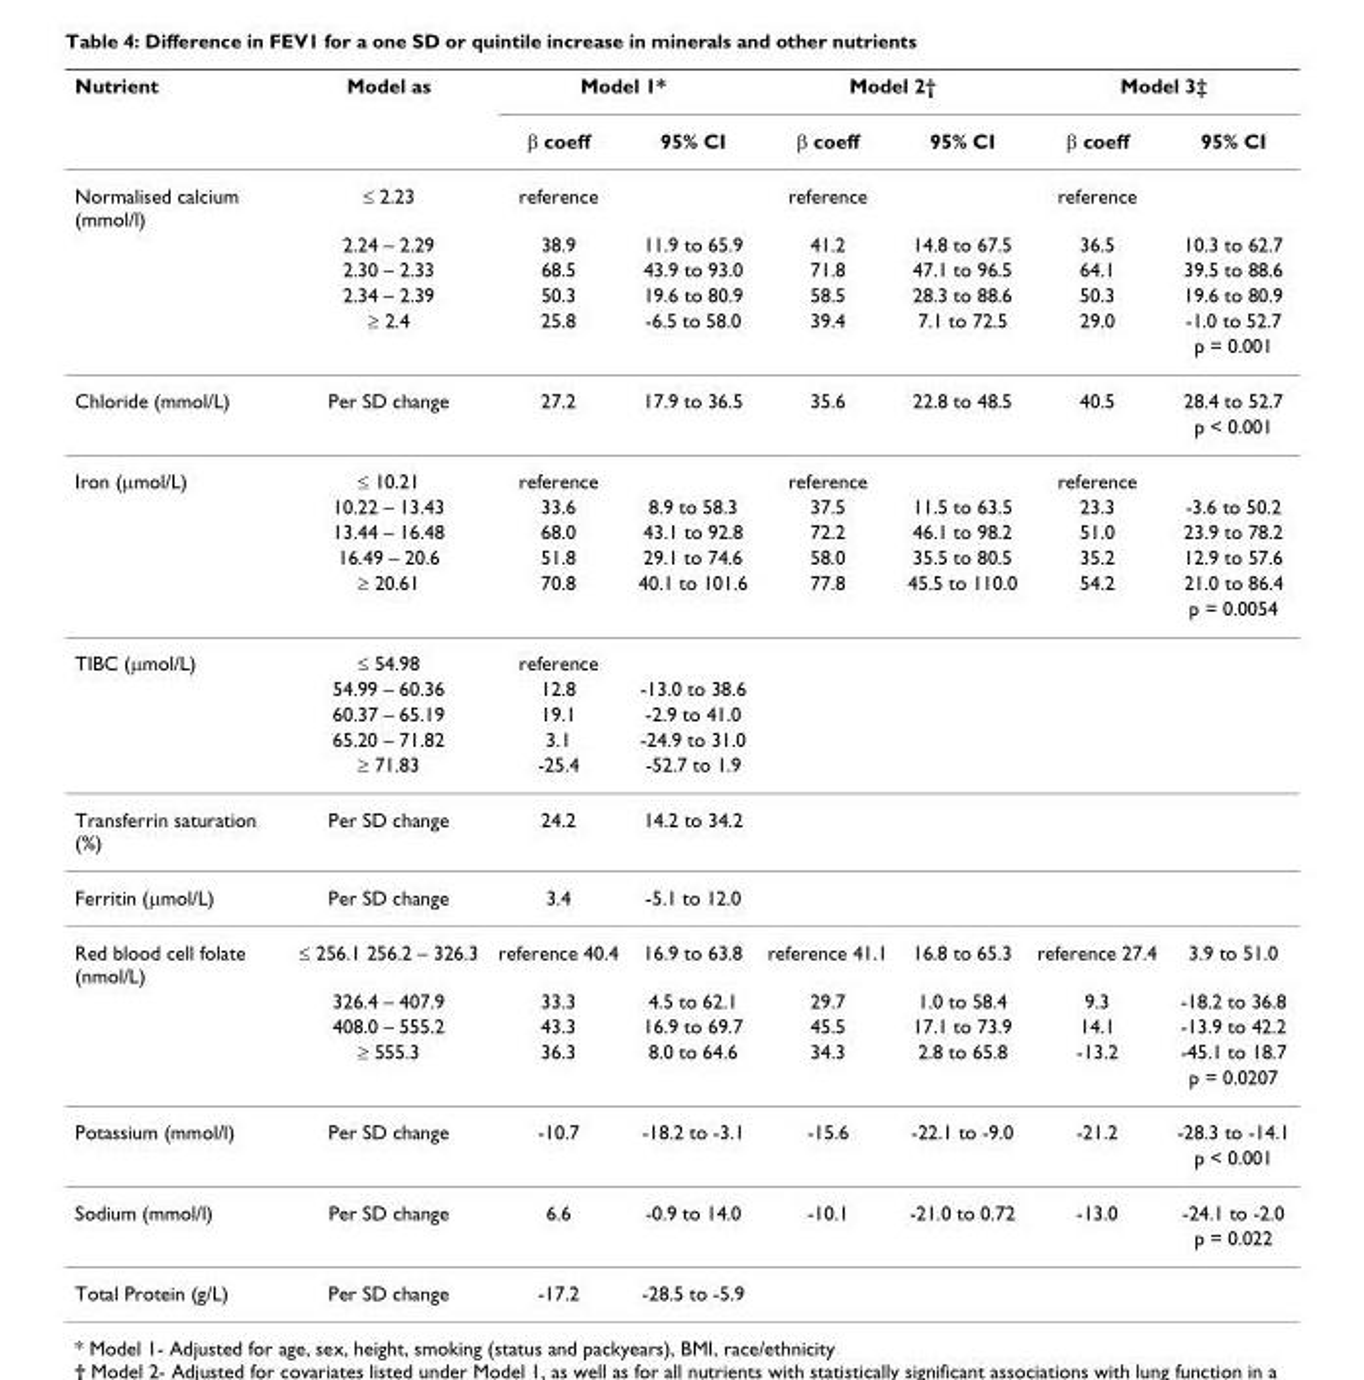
<table><thead><tr><td rowspan="2">Nutrient</td><td rowspan="2">Model as</td><td colspan="2">Model 1*</td><td colspan="2">Model 2†</td><td colspan="2">Model 3‡</td></tr><tr><td>β coeff</td><td>95% CI</td><td>β coeff</td><td>95% CI</td><td>β coeff</td><td>95% CI</td></tr></thead><tbody><tr><td rowspan="6">Normalised calcium (mmol/l)</td><td>≤ 2.23</td><td>reference</td><td></td><td>reference</td><td></td><td>reference</td><td></td></tr><tr><td>2.24 – 2.29</td><td>38.9</td><td>11.9 to 65.9</td><td>41.2</td><td>14.8 to 67.5</td><td>36.5</td><td>10.3 to 62.7</td></tr><tr><td>2.30 – 2.33</td><td>68.5</td><td>43.9 to 93.0</td><td>71.8</td><td>47.1 to 96.5</td><td>64.1</td><td>39.5 to 88.6</td></tr><tr><td>2.34 – 2.39</td><td>50.3</td><td>19.6 to 80.9</td><td>58.5</td><td>28.3 to 88.6</td><td>50.3</td><td>19.6 to 80.9</td></tr><tr><td>≥ 2.4</td><td>25.8</td><td>-6.5 to 58.0</td><td>39.4</td><td>7.1 to 72.5</td><td>29.0</td><td>-1.0 to 52.7</td></tr><tr><td></td><td></td><td></td><td></td><td></td><td></td><td>p = 0.001</td></tr><tr><td rowspan="2">Chloride (mmol/L)</td><td>Per SD change</td><td>27.2</td><td>17.9 to 36.5</td><td>35.6</td><td>22.8 to 48.5</td><td>40.5</td><td>28.4 to 52.7</td></tr><tr><td></td><td></td><td></td><td></td><td></td><td></td><td>p &lt; 0.001</td></tr><tr><td rowspan="6">Iron (μmol/L)</td><td>≤ 10.21</td><td>reference</td><td></td><td>reference</td><td></td><td>reference</td><td></td></tr><tr><td>10.22 – 13.43</td><td>33.6</td><td>8.9 to 58.3</td><td>37.5</td><td>11.5 to 63.5</td><td>23.3</td><td>-3.6 to 50.2</td></tr><tr><td>13.44 – 16.48</td><td>68.0</td><td>43.1 to 92.8</td><td>72.2</td><td>46.1 to 98.2</td><td>51.0</td><td>23.9 to 78.2</td></tr><tr><td>16.49 – 20.6</td><td>51.8</td><td>29.1 to 74.6</td><td>58.0</td><td>35.5 to 80.5</td><td>35.2</td><td>12.9 to 57.6</td></tr><tr><td>≥ 20.61</td><td>70.8</td><td>40.1 to 101.6</td><td>77.8</td><td>45.5 to 110.0</td><td>54.2</td><td>21.0 to 86.4</td></tr><tr><td></td><td></td><td></td><td></td><td></td><td></td><td>p = 0.0054</td></tr><tr><td rowspan="5">TIBC (μmol/L)</td><td>≤ 54.98</td><td>reference</td><td></td><td></td><td></td><td></td><td></td></tr><tr><td>54.99 – 60.36</td><td>12.8</td><td>-13.0 to 38.6</td><td></td><td></td><td></td><td></td></tr><tr><td>60.37 – 65.19</td><td>19.1</td><td>-2.9 to 41.0</td><td></td><td></td><td></td><td></td></tr><tr><td>65.20 – 71.82</td><td>3.1</td><td>-24.9 to 31.0</td><td></td><td></td><td></td><td></td></tr><tr><td>≥ 71.83</td><td>-25.4</td><td>-52.7 to 1.9</td><td></td><td></td><td></td><td></td></tr><tr><td>Transferrin saturation (%)</td><td>Per SD change</td><td>24.2</td><td>14.2 to 34.2</td><td></td><td></td><td></td><td></td></tr><tr><td>Ferritin (μmol/L)</td><td>Per SD change</td><td>3.4</td><td>-5.1 to 12.0</td><td></td><td></td><td></td><td></td></tr><tr><td rowspan="5">Red blood cell folate (nmol/L)</td><td>≤ 256.1 256.2 – 326.3</td><td>reference 40.4</td><td>16.9 to 63.8</td><td>reference 41.1</td><td>16.8 to 65.3</td><td>reference 27.4</td><td>3.9 to 51.0</td></tr><tr><td>326.4 – 407.9</td><td>33.3</td><td>4.5 to 62.1</td><td>29.7</td><td>1.0 to 58.4</td><td>9.3</td><td>-18.2 to 36.8</td></tr><tr><td>408.0 – 555.2</td><td>43.3</td><td>16.9 to 69.7</td><td>45.5</td><td>17.1 to 73.9</td><td>14.1</td><td>-13.9 to 42.2</td></tr><tr><td>≥ 555.3</td><td>36.3</td><td>8.0 to 64.6</td><td>34.3</td><td>2.8 to 65.8</td><td>-13.2</td><td>-45.1 to 18.7</td></tr><tr><td></td><td></td><td></td><td></td><td></td><td></td><td>p = 0.0207</td></tr><tr><td rowspan="2">Potassium (mmol/l)</td><td>Per SD change</td><td>-10.7</td><td>-18.2 to -3.1</td><td>-15.6</td><td>-22.1 to -9.0</td><td>-21.2</td><td>-28.3 to -14.1</td></tr><tr><td></td><td></td><td></td><td></td><td></td><td></td><td>p &lt; 0.001</td></tr><tr><td rowspan="2">Sodium (mmol/l)</td><td>Per SD change</td><td>6.6</td><td>-0.9 to 14.0</td><td>-10.1</td><td>-21.0 to 0.72</td><td>-13.0</td><td>-24.1 to -2.0</td></tr><tr><td></td><td></td><td></td><td></td><td></td><td></td><td>p = 0.022</td></tr><tr><td>Total Protein (g/L)</td><td>Per SD change</td><td>-17.2</td><td>-28.5 to -5.9</td><td></td><td></td><td></td><td></td></tr></tbody></table>